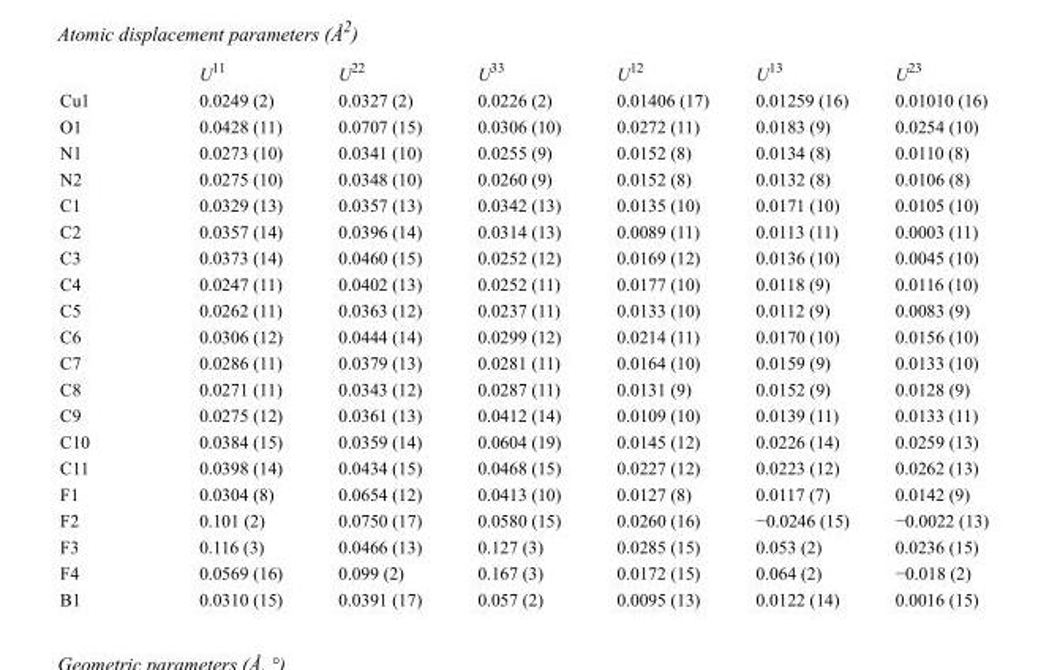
<table><thead><tr><td></td><td>U<sup>11</sup></td><td>U<sup>22</sup></td><td>U<sup>33</sup></td><td>U<sup>12</sup></td><td>U<sup>13</sup></td><td>U<sup>23</sup></td></tr></thead><tbody><tr><td>Cu1</td><td>0.0249 (2)</td><td>0.0327 (2)</td><td>0.0226 (2)</td><td>0.01406 (17)</td><td>0.01259 (16)</td><td>0.01010 (16)</td></tr><tr><td>O1</td><td>0.0428 (11)</td><td>0.0707 (15)</td><td>0.0306 (10)</td><td>0.0272 (11)</td><td>0.0183 (9)</td><td>0.0254 (10)</td></tr><tr><td>N1</td><td>0.0273 (10)</td><td>0.0341 (10)</td><td>0.0255 (9)</td><td>0.0152 (8)</td><td>0.0134 (8)</td><td>0.0110 (8)</td></tr><tr><td>N2</td><td>0.0275 (10)</td><td>0.0348 (10)</td><td>0.0260 (9)</td><td>0.0152 (8)</td><td>0.0132 (8)</td><td>0.0106 (8)</td></tr><tr><td>C1</td><td>0.0329 (13)</td><td>0.0357 (13)</td><td>0.0342 (13)</td><td>0.0135 (10)</td><td>0.0171 (10)</td><td>0.0105 (10)</td></tr><tr><td>C2</td><td>0.0357 (14)</td><td>0.0396 (14)</td><td>0.0314 (13)</td><td>0.0089 (11)</td><td>0.0113 (11)</td><td>0.0003 (11)</td></tr><tr><td>C3</td><td>0.0373 (14)</td><td>0.0460 (15)</td><td>0.0252 (12)</td><td>0.0169 (12)</td><td>0.0136 (10)</td><td>0.0045 (10)</td></tr><tr><td>C4</td><td>0.0247 (11)</td><td>0.0402 (13)</td><td>0.0252 (11)</td><td>0.0177 (10)</td><td>0.0118 (9)</td><td>0.0116 (10)</td></tr><tr><td>C5</td><td>0.0262 (11)</td><td>0.0363 (12)</td><td>0.0237 (11)</td><td>0.0133 (10)</td><td>0.0112 (9)</td><td>0.0083 (9)</td></tr><tr><td>C6</td><td>0.0306 (12)</td><td>0.0444 (14)</td><td>0.0299 (12)</td><td>0.0214 (11)</td><td>0.0170 (10)</td><td>0.0156 (10)</td></tr><tr><td>C7</td><td>0.0286 (11)</td><td>0.0379 (13)</td><td>0.0281 (11)</td><td>0.0164 (10)</td><td>0.0159 (9)</td><td>0.0133 (10)</td></tr><tr><td>C8</td><td>0.0271 (11)</td><td>0.0343 (12)</td><td>0.0287 (11)</td><td>0.0131 (9)</td><td>0.0152 (9)</td><td>0.0128 (9)</td></tr><tr><td>C9</td><td>0.0275 (12)</td><td>0.0361 (13)</td><td>0.0412 (14)</td><td>0.0109 (10)</td><td>0.0139 (11)</td><td>0.0133 (11)</td></tr><tr><td>C10</td><td>0.0384 (15)</td><td>0.0359 (14)</td><td>0.0604 (19)</td><td>0.0145 (12)</td><td>0.0226 (14)</td><td>0.0259 (13)</td></tr><tr><td>C11</td><td>0.0398 (14)</td><td>0.0434 (15)</td><td>0.0468 (15)</td><td>0.0227 (12)</td><td>0.0223 (12)</td><td>0.0262 (13)</td></tr><tr><td>F1</td><td>0.0304 (8)</td><td>0.0654 (12)</td><td>0.0413 (10)</td><td>0.0127 (8)</td><td>0.0117 (7)</td><td>0.0142 (9)</td></tr><tr><td>F2</td><td>0.101 (2)</td><td>0.0750 (17)</td><td>0.0580 (15)</td><td>0.0260 (16)</td><td>−0.0246 (15)</td><td>−0.0022 (13)</td></tr><tr><td>F3</td><td>0.116 (3)</td><td>0.0466 (13)</td><td>0.127 (3)</td><td>0.0285 (15)</td><td>0.053 (2)</td><td>0.0236 (15)</td></tr><tr><td>F4</td><td>0.0569 (16)</td><td>0.099 (2)</td><td>0.167 (3)</td><td>0.0172 (15)</td><td>0.064 (2)</td><td>−0.018 (2)</td></tr><tr><td>B1</td><td>0.0310 (15)</td><td>0.0391 (17)</td><td>0.057 (2)</td><td>0.0095 (13)</td><td>0.0122 (14)</td><td>0.0016 (15)</td></tr></tbody></table>